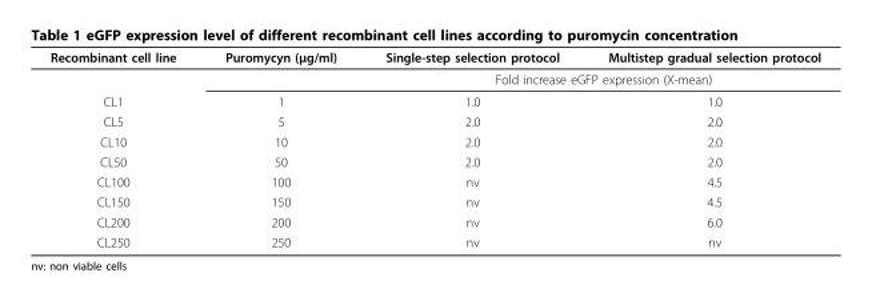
<table><thead><tr><td>Recombinant cell line</td><td>Puromycyn (µg/ml)</td><td>Single-step selection protocol</td><td>Multistep gradual selection protocol</td></tr></thead><tbody><tr><td></td><td></td><td colspan="2">Fold increase eGFP expression (X-mean)</td></tr><tr><td>CL1</td><td>1</td><td>1.0</td><td>1.0</td></tr><tr><td>CL5</td><td>5</td><td>2.0</td><td>2.0</td></tr><tr><td>CL10</td><td>10</td><td>2.0</td><td>2.0</td></tr><tr><td>CL50</td><td>50</td><td>2.0</td><td>2.0</td></tr><tr><td>CL100</td><td>100</td><td>nv</td><td>4.5</td></tr><tr><td>CL150</td><td>150</td><td>nv</td><td>4.5</td></tr><tr><td>CL200</td><td>200</td><td>nv</td><td>6.0</td></tr><tr><td>CL250</td><td>250</td><td>nv</td><td>nv</td></tr></tbody></table>